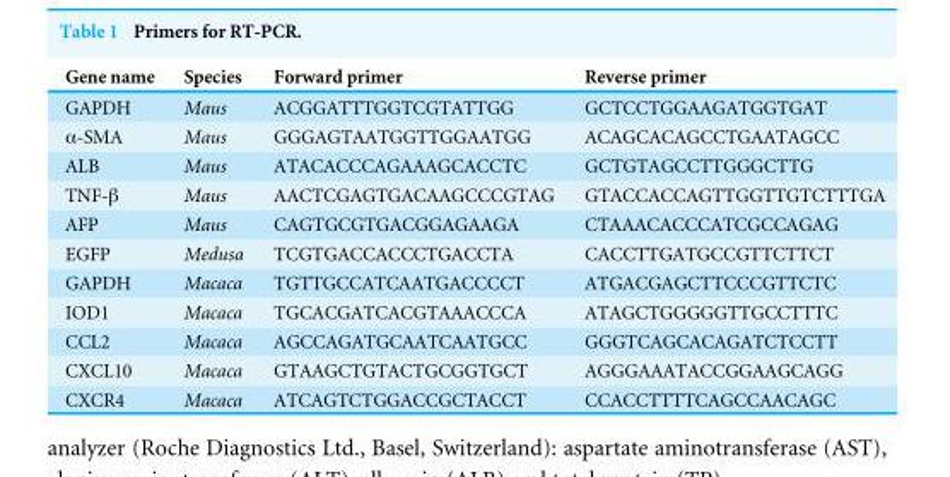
<table><thead><tr><td>Gene name</td><td>Species</td><td>Forward primer</td><td>Reverse primer</td></tr></thead><tbody><tr><td>GAPDH</td><td>Maus</td><td>ACGGATTTGGTCGTATTGG</td><td>GCTCCTGGAAGATGGTGAT</td></tr><tr><td>α-SMA</td><td>Maus</td><td>GGGAGTAATGGTTGGAATGG</td><td>ACAGCACAGCCTGAATAGCC</td></tr><tr><td>ALB</td><td>Maus</td><td>ATACACCCAGAAAGCACCTC</td><td>GCTGTAGCCTTGGGCTTG</td></tr><tr><td>TNF-β</td><td>Maus</td><td>AACTCGAGTGACAAGCCCGTAG</td><td>GTACCACCAGTTGGTTGTCTTTGA</td></tr><tr><td>AFP</td><td>Maus</td><td>CAGTGCGTGACGGAGAAGA</td><td>CTAAACACCCATCGCCAGAG</td></tr><tr><td>EGFP</td><td>Medusa</td><td>TCGTGACCACCCTGACCTA</td><td>CACCTTGATGCCGTTCTTCT</td></tr><tr><td>GAPDH</td><td>Macaca</td><td>TGTTGCCATCAATGACCCCT</td><td>ATGACGAGCTTCCCGTTCTC</td></tr><tr><td>IOD1</td><td>Macaca</td><td>TGCACGATCACGTAAACCCA</td><td>ATAGCTGGGGGTTGCCTTTC</td></tr><tr><td>CCL2</td><td>Macaca</td><td>AGCCAGATGCAATCAATGCC</td><td>GGGTCAGCACAGATCTCCTT</td></tr><tr><td>CXCL10</td><td>Macaca</td><td>GTAAGCTGTACTGCGGTGCT</td><td>AGGGAAATACCGGAAGCAGG</td></tr><tr><td>CXCR4</td><td>Macaca</td><td>ATCAGTCTGGACCGCTACCT</td><td>CCACCTTTTCAGCCAACAGC</td></tr></tbody></table>